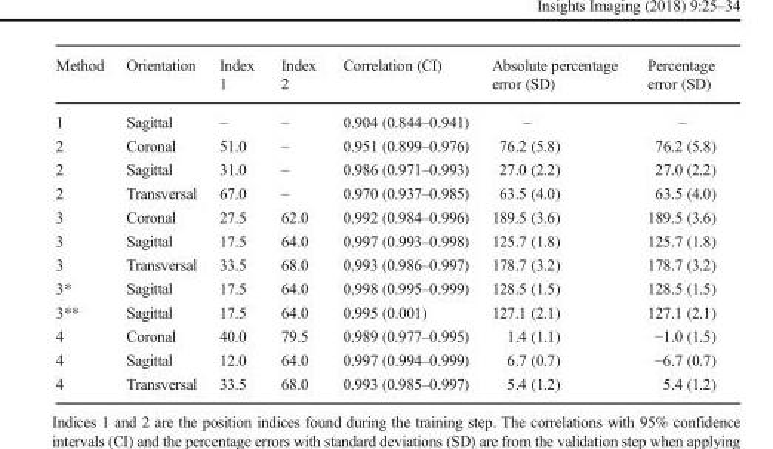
<table><thead><tr><td>Method</td><td>Orientation</td><td>Index 1</td><td>Index 2</td><td>Correlation (CI)</td><td>Absolute percentage error (SD)</td><td>Percentage error (SD)</td></tr></thead><tbody><tr><td>1</td><td>Sagittal</td><td>–</td><td>–</td><td>0.904 (0.844–0.941)</td><td>–</td><td>–</td></tr><tr><td>2</td><td>Coronal</td><td>51.0</td><td>–</td><td>0.951 (0.899–0.976)</td><td>76.2 (5.8)</td><td>76.2 (5.8)</td></tr><tr><td>2</td><td>Sagittal</td><td>31.0</td><td>–</td><td>0.986 (0.971–0.993)</td><td>27.0 (2.2)</td><td>27.0 (2.2)</td></tr><tr><td>2</td><td>Transversal</td><td>67.0</td><td>–</td><td>0.970 (0.937–0.985)</td><td>63.5 (4.0)</td><td>63.5 (4.0)</td></tr><tr><td>3</td><td>Coronal</td><td>27.5</td><td>62.0</td><td>0.992 (0.984–0.996)</td><td>189.5 (3.6)</td><td>189.5 (3.6)</td></tr><tr><td>3</td><td>Sagittal</td><td>17.5</td><td>64.0</td><td>0.997 (0.993–0.998)</td><td>125.7 (1.8)</td><td>125.7 (1.8)</td></tr><tr><td>3</td><td>Transversal</td><td>33.5</td><td>68.0</td><td>0.993 (0.986–0.997)</td><td>178.7 (3.2)</td><td>178.7 (3.2)</td></tr><tr><td>3*</td><td>Sagittal</td><td>17.5</td><td>64.0</td><td>0.998 (0.995–0.999)</td><td>128.5 (1.5)</td><td>128.5 (1.5)</td></tr><tr><td>3**</td><td>Sagittal</td><td>17.5</td><td>64.0</td><td>0.995 (0.001)</td><td>127.1 (2.1)</td><td>127.1 (2.1)</td></tr><tr><td>4</td><td>Coronal</td><td>40.0</td><td>79.5</td><td>0.989 (0.977–0.995)</td><td>1.4 (1.1)</td><td>−1.0 (1.5)</td></tr><tr><td>4</td><td>Sagittal</td><td>12.0</td><td>64.0</td><td>0.997 (0.994–0.999)</td><td>6.7 (0.7)</td><td>−6.7 (0.7)</td></tr><tr><td>4</td><td>Transversal</td><td>33.5</td><td>68.0</td><td>0.993 (0.985–0.997)</td><td>5.4 (1.2)</td><td>5.4 (1.2)</td></tr></tbody></table>